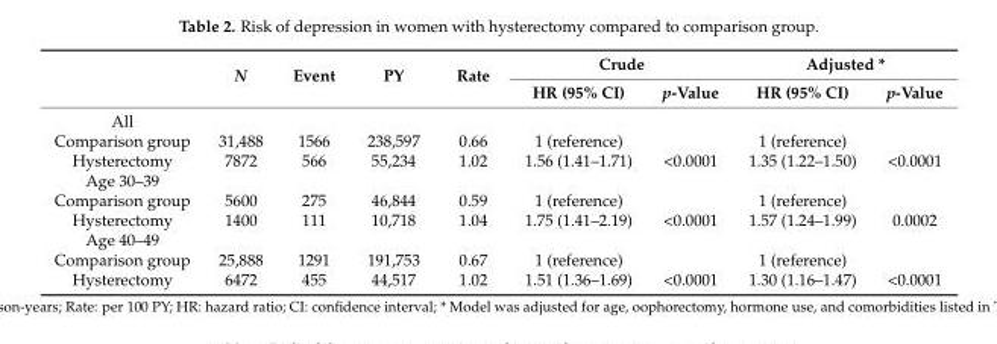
<table><thead><tr><td rowspan="2"></td><td rowspan="2">N</td><td rowspan="2">Event</td><td rowspan="2">PY</td><td rowspan="2">Rate</td><td colspan="2">Crude</td><td colspan="2">Adjusted *</td></tr><tr><td>HR (95% CI)</td><td>p-Value</td><td>HR (95% CI)</td><td>p-Value</td></tr></thead><tbody><tr><td colspan="9">All</td></tr><tr><td>Comparison group</td><td>31,488</td><td>1566</td><td>238,597</td><td>0.66</td><td>1 (reference)</td><td></td><td>1 (reference)</td><td></td></tr><tr><td>Hysterectomy</td><td>7872</td><td>566</td><td>55,234</td><td>1.02</td><td>1.56 (1.41–1.71)</td><td>&lt;0.0001</td><td>1.35 (1.22–1.50)</td><td>&lt;0.0001</td></tr><tr><td colspan="9">Age 30–39</td></tr><tr><td>Comparison group</td><td>5600</td><td>275</td><td>46,844</td><td>0.59</td><td>1 (reference)</td><td></td><td>1 (reference)</td><td></td></tr><tr><td>Hysterectomy</td><td>1400</td><td>111</td><td>10,718</td><td>1.04</td><td>1.75 (1.41–2.19)</td><td>&lt;0.0001</td><td>1.57 (1.24–1.99)</td><td>0.0002</td></tr><tr><td colspan="9">Age 40–49</td></tr><tr><td>Comparison group</td><td>25,888</td><td>1291</td><td>191,753</td><td>0.67</td><td>1 (reference)</td><td></td><td>1 (reference)</td><td></td></tr><tr><td>Hysterectomy</td><td>6472</td><td>455</td><td>44,517</td><td>1.02</td><td>1.51 (1.36–1.69)</td><td>&lt;0.0001</td><td>1.30 (1.16–1.47)</td><td>&lt;0.0001</td></tr></tbody></table>